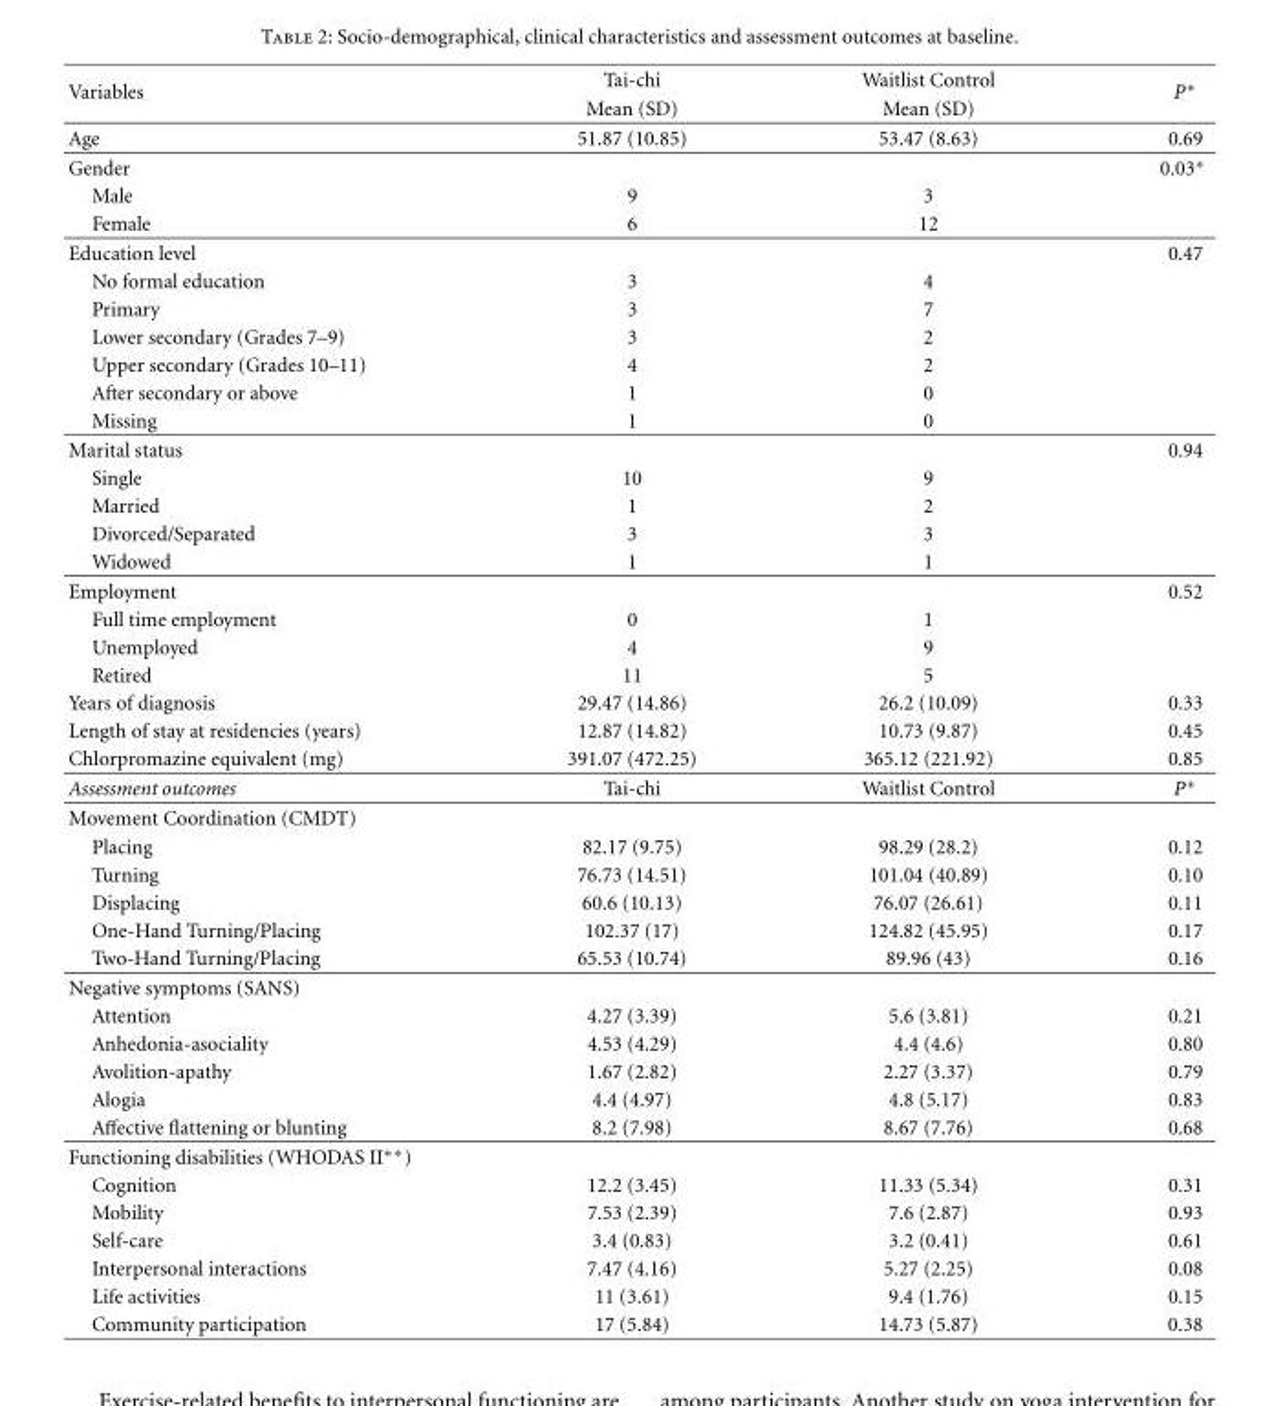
<table><thead><tr><td>Variables</td><td>Tai-chi Mean (SD)</td><td>Waitlist Control Mean (SD)</td><td>P∗</td></tr></thead><tbody><tr><td>Age</td><td>51.87 (10.85)</td><td>53.47 (8.63)</td><td>0.69</td></tr><tr><td>Gender</td><td></td><td></td><td>0.03∗</td></tr><tr><td>Male</td><td>9</td><td>3</td><td></td></tr><tr><td>Female</td><td>6</td><td>12</td><td></td></tr><tr><td>Education level</td><td></td><td></td><td>0.47</td></tr><tr><td>No formal education</td><td>3</td><td>4</td><td></td></tr><tr><td>Primary</td><td>3</td><td>7</td><td></td></tr><tr><td>Lower secondary (Grades 7–9)</td><td>3</td><td>2</td><td></td></tr><tr><td>Upper secondary (Grades 10–11)</td><td>4</td><td>2</td><td></td></tr><tr><td>After secondary or above</td><td>1</td><td>0</td><td></td></tr><tr><td>Missing</td><td>1</td><td>0</td><td></td></tr><tr><td>Marital status</td><td></td><td></td><td>0.94</td></tr><tr><td>Single</td><td>10</td><td>9</td><td></td></tr><tr><td>Married</td><td>1</td><td>2</td><td></td></tr><tr><td>Divorced/Separated</td><td>3</td><td>3</td><td></td></tr><tr><td>Widowed</td><td>1</td><td>1</td><td></td></tr><tr><td>Employment</td><td></td><td></td><td>0.52</td></tr><tr><td>Full time employment</td><td>0</td><td>1</td><td></td></tr><tr><td>Unemployed</td><td>4</td><td>9</td><td></td></tr><tr><td>Retired</td><td>11</td><td>5</td><td></td></tr><tr><td>Years of diagnosis</td><td>29.47 (14.86)</td><td>26.2 (10.09)</td><td>0.33</td></tr><tr><td>Length of stay at residencies (years)</td><td>12.87 (14.82)</td><td>10.73 (9.87)</td><td>0.45</td></tr><tr><td>Chlorpromazine equivalent (mg)</td><td>391.07 (472.25)</td><td>365.12 (221.92)</td><td>0.85</td></tr><tr><td>Assessment outcomes</td><td>Tai-chi</td><td>Waitlist Control</td><td>P∗</td></tr><tr><td colspan="4">Movement Coordination (CMDT)</td></tr><tr><td>Placing</td><td>82.17 (9.75)</td><td>98.29 (28.2)</td><td>0.12</td></tr><tr><td>Turning</td><td>76.73 (14.51)</td><td>101.04 (40.89)</td><td>0.10</td></tr><tr><td>Displacing</td><td>60.6 (10.13)</td><td>76.07 (26.61)</td><td>0.11</td></tr><tr><td>One-Hand Turning/Placing</td><td>102.37 (17)</td><td>124.82 (45.95)</td><td>0.17</td></tr><tr><td>Two-Hand Turning/Placing</td><td>65.53 (10.74)</td><td>89.96 (43)</td><td>0.16</td></tr><tr><td colspan="4">Negative symptoms (SANS)</td></tr><tr><td>Attention</td><td>4.27 (3.39)</td><td>5.6 (3.81)</td><td>0.21</td></tr><tr><td>Anhedonia-asociality</td><td>4.53 (4.29)</td><td>4.4 (4.6)</td><td>0.80</td></tr><tr><td>Avolition-apathy</td><td>1.67 (2.82)</td><td>2.27 (3.37)</td><td>0.79</td></tr><tr><td>Alogia</td><td>4.4 (4.97)</td><td>4.8 (5.17)</td><td>0.83</td></tr><tr><td>Affective flattening or blunting</td><td>8.2 (7.98)</td><td>8.67 (7.76)</td><td>0.68</td></tr><tr><td colspan="4">Functioning disabilities (WHODAS II∗∗)</td></tr><tr><td>Cognition</td><td>12.2 (3.45)</td><td>11.33 (5.34)</td><td>0.31</td></tr><tr><td>Mobility</td><td>7.53 (2.39)</td><td>7.6 (2.87)</td><td>0.93</td></tr><tr><td>Self-care</td><td>3.4 (0.83)</td><td>3.2 (0.41)</td><td>0.61</td></tr><tr><td>Interpersonal interactions</td><td>7.47 (4.16)</td><td>5.27 (2.25)</td><td>0.08</td></tr><tr><td>Life activities</td><td>11 (3.61)</td><td>9.4 (1.76)</td><td>0.15</td></tr><tr><td>Community participation</td><td>17 (5.84)</td><td>14.73 (5.87)</td><td>0.38</td></tr></tbody></table>